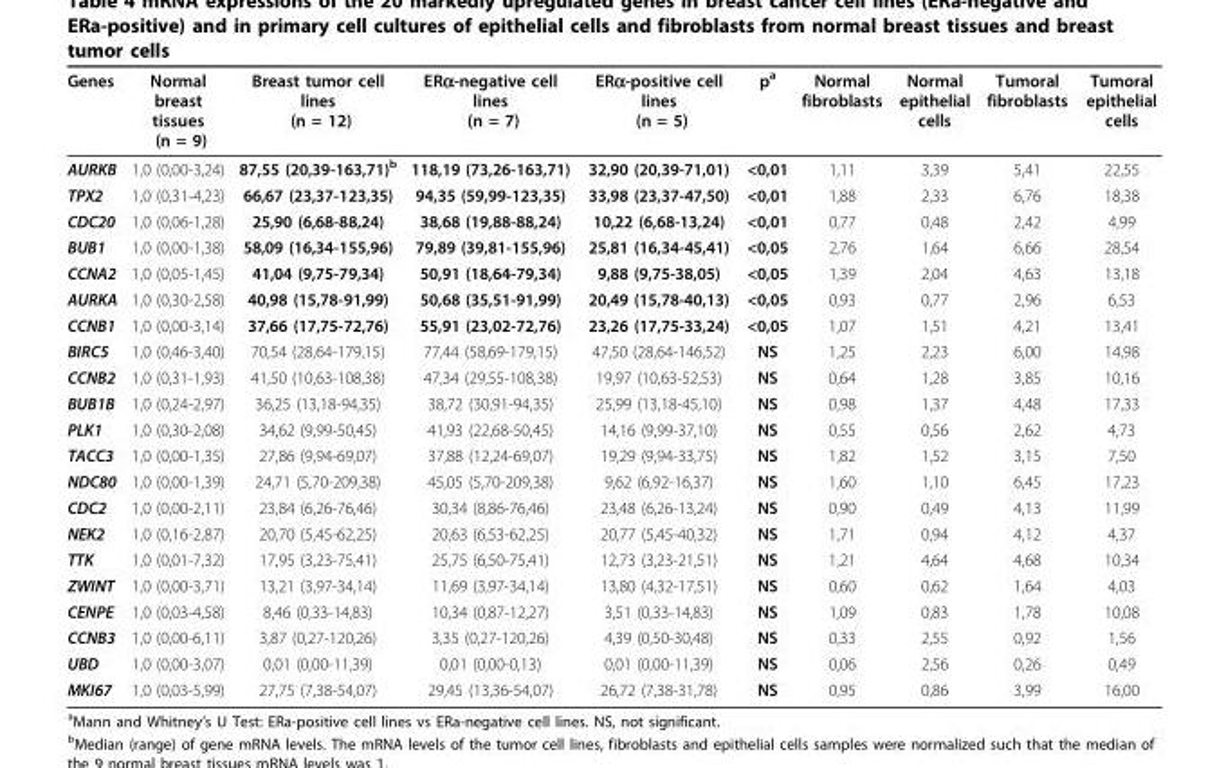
<table><thead><tr><td>Genes</td><td>Normal breast tissues (n = 9)</td><td>Breast tumor cell lines (n = 12)</td><td>ERα-negative cell lines (n = 7)</td><td>ERα-positive cell lines (n = 5)</td><td>p<sup>a</sup></td><td>Normal fibroblasts</td><td>Normal epithelial cells</td><td>Tumoral fibroblasts</td><td>Tumoral epithelial cells</td></tr></thead><tbody><tr><td>AURKB</td><td>1,0 (0,00-3,24)</td><td>87,55 (20,39-163,71)<sup>b</sup></td><td>118,19 (73,26-163,71)</td><td>32,90 (20,39-71,01)</td><td>&lt;0,01</td><td>1,11</td><td>3,39</td><td>5,41</td><td>22,55</td></tr><tr><td>TPX2</td><td>1,0 (0,31-4,23)</td><td>66,67 (23,37-123,35)</td><td>94,35 (59,99-123,35)</td><td>33,98 (23,37-47,50)</td><td>&lt;0,01</td><td>1,88</td><td>2,33</td><td>6,76</td><td>18,38</td></tr><tr><td>CDC20</td><td>1,0 (0,06-1,28)</td><td>25,90 (6,68-88,24)</td><td>38,68 (19,88-88,24)</td><td>10,22 (6,68-13,24)</td><td>&lt;0,01</td><td>0,77</td><td>0,48</td><td>2,42</td><td>4,99</td></tr><tr><td>BUB1</td><td>1,0 (0,00-1,38)</td><td>58,09 (16,34-155,96)</td><td>79,89 (39,81-155,96)</td><td>25,81 (16,34-45,41)</td><td>&lt;0,05</td><td>2,76</td><td>1,64</td><td>6,66</td><td>28,54</td></tr><tr><td>CCNA2</td><td>1,0 (0,05-1,45)</td><td>41,04 (9,75-79,34)</td><td>50,91 (18,64-79,34)</td><td>9,88 (9,75-38,05)</td><td>&lt;0,05</td><td>1,39</td><td>2,04</td><td>4,63</td><td>13,18</td></tr><tr><td>AURKA</td><td>1,0 (0,30-2,58)</td><td>40,98 (15,78-91,99)</td><td>50,68 (35,51-91,99)</td><td>20,49 (15,78-40,13)</td><td>&lt;0,05</td><td>0,93</td><td>0,77</td><td>2,96</td><td>6,53</td></tr><tr><td>CCNB1</td><td>1,0 (0,00-3,14)</td><td>37,66 (17,75-72,76)</td><td>55,91 (23,02-72,76)</td><td>23,26 (17,75-33,24)</td><td>&lt;0,05</td><td>1,07</td><td>1,51</td><td>4,21</td><td>13,41</td></tr><tr><td>BIRC5</td><td>1,0 (0,46-3,40)</td><td>70,54 (28,64-179,15)</td><td>77,44 (58,69-179,15)</td><td>47,50 (28,64-146,52)</td><td>NS</td><td>1,25</td><td>2,23</td><td>6,00</td><td>14,98</td></tr><tr><td>CCNB2</td><td>1,0 (0,31-1,93)</td><td>41,50 (10,63-108,38)</td><td>47,34 (29,55-108,38)</td><td>19,97 (10,63-52,53)</td><td>NS</td><td>0,64</td><td>1,28</td><td>3,85</td><td>10,16</td></tr><tr><td>BUB1B</td><td>1,0 (0,24-2,97)</td><td>36,25 (13,18-94,35)</td><td>38,72 (30,91-94,35)</td><td>25,99 (13,18-45,10)</td><td>NS</td><td>0,98</td><td>1,37</td><td>4,48</td><td>17,33</td></tr><tr><td>PLK1</td><td>1,0 (0,30-2,08)</td><td>34,62 (9,99-50,45)</td><td>41,93 (22,68-50,45)</td><td>14,16 (9,99-37,10)</td><td>NS</td><td>0,55</td><td>0,56</td><td>2,62</td><td>4,73</td></tr><tr><td>TACC3</td><td>1,0 (0,00-1,35)</td><td>27,86 (9,94-69,07)</td><td>37,88 (12,24-69,07)</td><td>19,29 (9,94-33,75)</td><td>NS</td><td>1,82</td><td>1,52</td><td>3,15</td><td>7,50</td></tr><tr><td>NDC80</td><td>1,0 (0,00-1,39)</td><td>24,71 (5,70-209,38)</td><td>45,05 (5,70-209,38)</td><td>9,62 (6,92-16,37)</td><td>NS</td><td>1,60</td><td>1,10</td><td>6,45</td><td>17,23</td></tr><tr><td>CDC2</td><td>1,0 (0,00-2,11)</td><td>23,84 (6,26-76,46)</td><td>30,34 (8,86-76,46)</td><td>23,48 (6,26-13,24)</td><td>NS</td><td>0,90</td><td>0,49</td><td>4,13</td><td>11,99</td></tr><tr><td>NEK2</td><td>1,0 (0,16-2,87)</td><td>20,70 (5,45-62,25)</td><td>20,63 (6,53-62,25)</td><td>20,77 (5,45-40,32)</td><td>NS</td><td>1,71</td><td>0,94</td><td>4,12</td><td>4,37</td></tr><tr><td>TTK</td><td>1,0 (0,01-7,32)</td><td>17,95 (3,23-75,41)</td><td>25,75 (6,50-75,41)</td><td>12,73 (3,23-21,51)</td><td>NS</td><td>1,21</td><td>4,64</td><td>4,68</td><td>10,34</td></tr><tr><td>ZWINT</td><td>1,0 (0,00-3,71)</td><td>13,21 (3,97-34,14)</td><td>11,69 (3,97-34,14)</td><td>13,80 (4,32-17,51)</td><td>NS</td><td>0,60</td><td>0,62</td><td>1,64</td><td>4,03</td></tr><tr><td>CENPE</td><td>1,0 (0,03-4,58)</td><td>8,46 (0,33-14,83)</td><td>10,34 (0,87-12,27)</td><td>3,51 (0,33-14,83)</td><td>NS</td><td>1,09</td><td>0,83</td><td>1,78</td><td>10,08</td></tr><tr><td>CCNB3</td><td>1,0 (0,00-6,11)</td><td>3,87 (0,27-120,26)</td><td>3,35 (0,27-120,26)</td><td>4,39 (0,50-30,48)</td><td>NS</td><td>0,33</td><td>2,55</td><td>0,92</td><td>1,56</td></tr><tr><td>UBD</td><td>1,0 (0,00-3,07)</td><td>0,01 (0,00-11,39)</td><td>0,01 (0,00-0,13)</td><td>0,01 (0,00-11,39)</td><td>NS</td><td>0,06</td><td>2,56</td><td>0,26</td><td>0,49</td></tr><tr><td>MKI67</td><td>1,0 (0,03-5,99)</td><td>27,75 (7,38-54,07)</td><td>29,45 (13,36-54,07)</td><td>26,72 (7,38-31,78)</td><td>NS</td><td>0,95</td><td>0,86</td><td>3,99</td><td>16,00</td></tr></tbody></table>